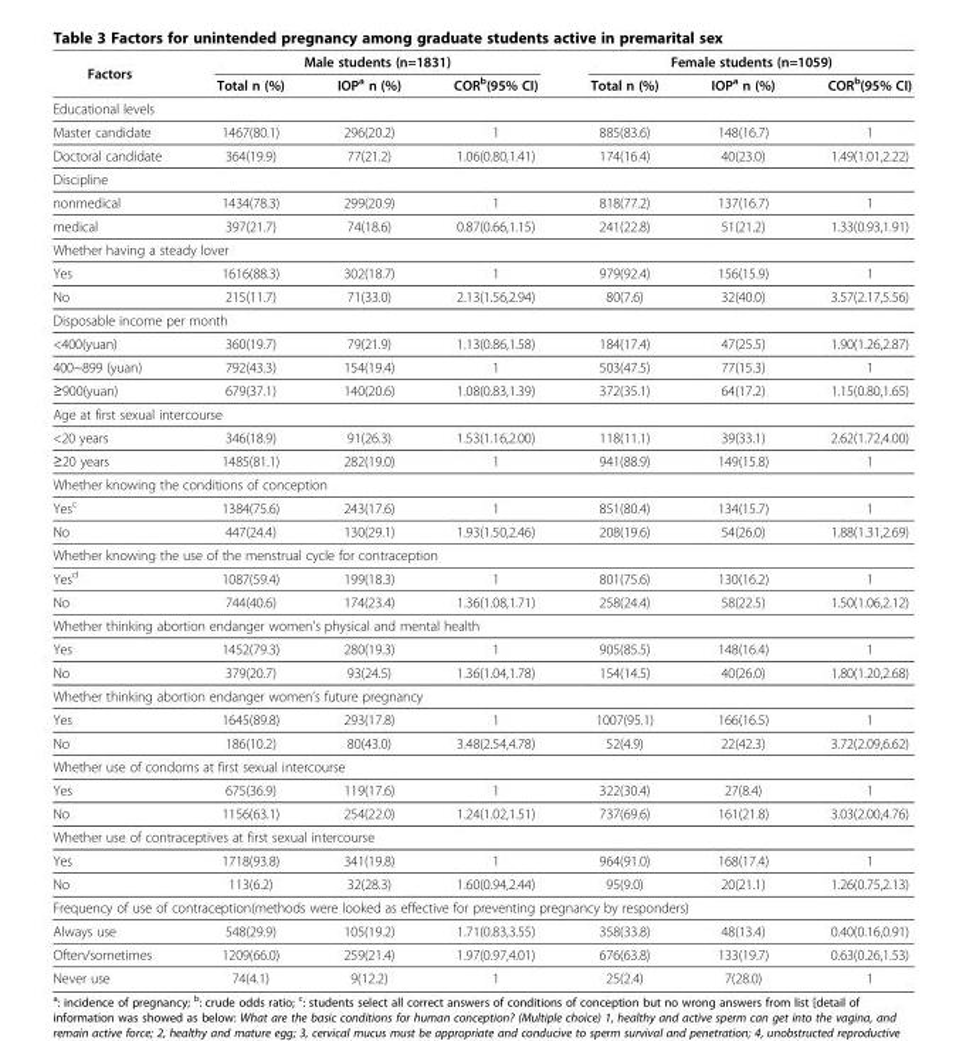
<table><thead><tr><td rowspan="2">Factors</td><td colspan="3">Male students (n=1831)</td><td colspan="3">Female students (n=1059)</td></tr><tr><td>Total n (%)</td><td>IOP<sup>a</sup> n (%)</td><td>COR<sup>b</sup>(95% CI)</td><td>Total n (%)</td><td>IOP<sup>a</sup> n (%)</td><td>COR<sup>b</sup>(95% CI)</td></tr></thead><tbody><tr><td colspan="7">Educational levels</td></tr><tr><td>Master candidate</td><td>1467(80.1)</td><td>296(20.2)</td><td>1</td><td>885(83.6)</td><td>148(16.7)</td><td>1</td></tr><tr><td>Doctoral candidate</td><td>364(19.9)</td><td>77(21.2)</td><td>1.06(0.80,1.41)</td><td>174(16.4)</td><td>40(23.0)</td><td>1.49(1.01,2.22)</td></tr><tr><td colspan="7">Discipline</td></tr><tr><td>nonmedical</td><td>1434(78.3)</td><td>299(20.9)</td><td>1</td><td>818(77.2)</td><td>137(16.7)</td><td>1</td></tr><tr><td>medical</td><td>397(21.7)</td><td>74(18.6)</td><td>0.87(0.66,1.15)</td><td>241(22.8)</td><td>51(21.2)</td><td>1.33(0.93,1.91)</td></tr><tr><td colspan="7">Whether having a steady lover</td></tr><tr><td>Yes</td><td>1616(88.3)</td><td>302(18.7)</td><td>1</td><td>979(92.4)</td><td>156(15.9)</td><td>1</td></tr><tr><td>No</td><td>215(11.7)</td><td>71(33.0)</td><td>2.13(1.56,2.94)</td><td>80(7.6)</td><td>32(40.0)</td><td>3.57(2.17,5.56)</td></tr><tr><td colspan="7">Disposable income per month</td></tr><tr><td>&lt;400(yuan)</td><td>360(19.7)</td><td>79(21.9)</td><td>1.13(0.86,1.58)</td><td>184(17.4)</td><td>47(25.5)</td><td>1.90(1.26,2.87)</td></tr><tr><td>400~899 (yuan)</td><td>792(43.3)</td><td>154(19.4)</td><td>1</td><td>503(47.5)</td><td>77(15.3)</td><td>1</td></tr><tr><td>≥900(yuan)</td><td>679(37.1)</td><td>140(20.6)</td><td>1.08(0.83,1.39)</td><td>372(35.1)</td><td>64(17.2)</td><td>1.15(0.80,1.65)</td></tr><tr><td colspan="7">Age at first sexual intercourse</td></tr><tr><td>&lt;20 years</td><td>346(18.9)</td><td>91(26.3)</td><td>1.53(1.16,2.00)</td><td>118(11.1)</td><td>39(33.1)</td><td>2.62(1.72,4.00)</td></tr><tr><td>≥20 years</td><td>1485(81.1)</td><td>282(19.0)</td><td>1</td><td>941(88.9)</td><td>149(15.8)</td><td>1</td></tr><tr><td colspan="7">Whether knowing the conditions of conception</td></tr><tr><td>Yes<sup>c</sup></td><td>1384(75.6)</td><td>243(17.6)</td><td>1</td><td>851(80.4)</td><td>134(15.7)</td><td>1</td></tr><tr><td>No</td><td>447(24.4)</td><td>130(29.1)</td><td>1.93(1.50,2.46)</td><td>208(19.6)</td><td>54(26.0)</td><td>1.88(1.31,2.69)</td></tr><tr><td colspan="7">Whether knowing the use of the menstrual cycle for contraception</td></tr><tr><td>Yes<sup>d</sup></td><td>1087(59.4)</td><td>199(18.3)</td><td>1</td><td>801(75.6)</td><td>130(16.2)</td><td>1</td></tr><tr><td>No</td><td>744(40.6)</td><td>174(23.4)</td><td>1.36(1.08,1.71)</td><td>258(24.4)</td><td>58(22.5)</td><td>1.50(1.06,2.12)</td></tr><tr><td colspan="7">Whether thinking abortion endanger women&#x27;s physical and mental health</td></tr><tr><td>Yes</td><td>1452(79.3)</td><td>280(19.3)</td><td>1</td><td>905(85.5)</td><td>148(16.4)</td><td>1</td></tr><tr><td>No</td><td>379(20.7)</td><td>93(24.5)</td><td>1.36(1.04,1.78)</td><td>154(14.5)</td><td>40(26.0)</td><td>1.80(1.20,2.68)</td></tr><tr><td colspan="7">Whether thinking abortion endanger women’s future pregnancy</td></tr><tr><td>Yes</td><td>1645(89.8)</td><td>293(17.8)</td><td>1</td><td>1007(95.1)</td><td>166(16.5)</td><td>1</td></tr><tr><td>No</td><td>186(10.2)</td><td>80(43.0)</td><td>3.48(2.54,4.78)</td><td>52(4.9)</td><td>22(42.3)</td><td>3.72(2.09,6.62)</td></tr><tr><td colspan="7">Whether use of condoms at first sexual intercourse</td></tr><tr><td>Yes</td><td>675(36.9)</td><td>119(17.6)</td><td>1</td><td>322(30.4)</td><td>27(8.4)</td><td>1</td></tr><tr><td>No</td><td>1156(63.1)</td><td>254(22.0)</td><td>1.24(1.02,1.51)</td><td>737(69.6)</td><td>161(21.8)</td><td>3.03(2.00,4.76)</td></tr><tr><td colspan="7">Whether use of contraceptives at first sexual intercourse</td></tr><tr><td>Yes</td><td>1718(93.8)</td><td>341(19.8)</td><td>1</td><td>964(91.0)</td><td>168(17.4)</td><td>1</td></tr><tr><td>No</td><td>113(6.2)</td><td>32(28.3)</td><td>1.60(0.94,2.44)</td><td>95(9.0)</td><td>20(21.1)</td><td>1.26(0.75,2.13)</td></tr><tr><td colspan="7">Frequency of use of contraception(methods were looked as effective for preventing pregnancy by responders)</td></tr><tr><td>Always use</td><td>548(29.9)</td><td>105(19.2)</td><td>1.71(0.83,3.55)</td><td>358(33.8)</td><td>48(13.4)</td><td>0.40(0.16,0.91)</td></tr><tr><td>Often/sometimes</td><td>1209(66.0)</td><td>259(21.4)</td><td>1.97(0.97,4.01)</td><td>676(63.8)</td><td>133(19.7)</td><td>0.63(0.26,1.53)</td></tr><tr><td>Never use</td><td>74(4.1)</td><td>9(12.2)</td><td>1</td><td>25(2.4)</td><td>7(28.0)</td><td>1</td></tr></tbody></table>